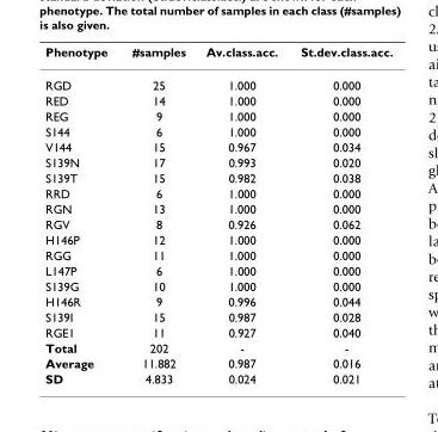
<table><thead><tr><td>Phenotype</td><td>#samples</td><td>Av.class.acc.</td><td>St.dev.class.acc.</td></tr></thead><tbody><tr><td>RGD</td><td>25</td><td>1.000</td><td>0.000</td></tr><tr><td>RED</td><td>14</td><td>1.000</td><td>0.000</td></tr><tr><td>REG</td><td>9</td><td>1.000</td><td>0.000</td></tr><tr><td>S144</td><td>6</td><td>1.000</td><td>0.000</td></tr><tr><td>V144</td><td>15</td><td>0.967</td><td>0.034</td></tr><tr><td>S139N</td><td>17</td><td>0.993</td><td>0.020</td></tr><tr><td>S139T</td><td>15</td><td>0.982</td><td>0.038</td></tr><tr><td>RRD</td><td>6</td><td>1.000</td><td>0.000</td></tr><tr><td>RGN</td><td>13</td><td>1.000</td><td>0.000</td></tr><tr><td>RGV</td><td>8</td><td>0.926</td><td>0.062</td></tr><tr><td>H146P</td><td>12</td><td>1.000</td><td>0.000</td></tr><tr><td>RGG</td><td>11</td><td>1.000</td><td>0.000</td></tr><tr><td>L147P</td><td>6</td><td>1.000</td><td>0.000</td></tr><tr><td>S139G</td><td>10</td><td>1.000</td><td>0.000</td></tr><tr><td>H146R</td><td>9</td><td>0.996</td><td>0.044</td></tr><tr><td>S139I</td><td>15</td><td>0.987</td><td>0.028</td></tr><tr><td>RGE1</td><td>11</td><td>0.927</td><td>0.040</td></tr><tr><td>Total</td><td>202</td><td>-</td><td>-</td></tr><tr><td>Average</td><td>11.882</td><td>0.987</td><td>0.016</td></tr><tr><td>SD</td><td>4.833</td><td>0.024</td><td>0.021</td></tr></tbody></table>